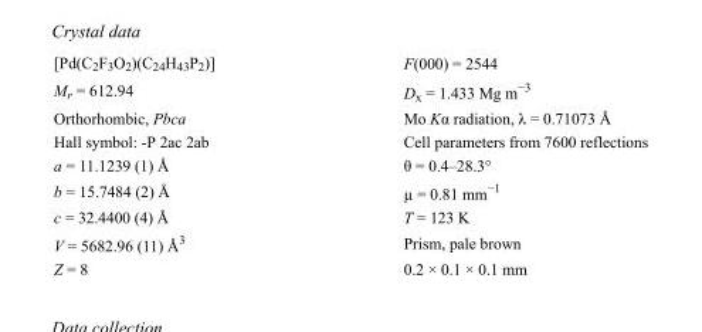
<table><tbody><tr><td>[Pd(C<sub>2</sub>F<sub>3</sub>O<sub>2</sub>)(C<sub>24</sub>H<sub>43</sub>P<sub>2</sub>)]</td><td>F(000) = 2544</td></tr><tr><td>M<sub>r</sub> = 612.94</td><td>D<sub>x</sub> = 1.433 Mg m<sup>−3</sup></td></tr><tr><td>Orthorhombic, Pbca</td><td>Mo Kα radiation, λ = 0.71073 Å</td></tr><tr><td>Hall symbol: -P 2ac 2ab</td><td>Cell parameters from 7600 reflections</td></tr><tr><td>a = 11.1239 (1) Å</td><td>θ = 0.4–28.3°</td></tr><tr><td>b = 15.7484 (2) Å</td><td>µ = 0.81 mm<sup>−1</sup></td></tr><tr><td>c = 32.4400 (4) Å</td><td>T = 123 K</td></tr><tr><td>V = 5682.96 (11) Å<sup>3</sup></td><td>Prism, pale brown</td></tr><tr><td>Z = 8</td><td>0.2 × 0.1 × 0.1 mm</td></tr></tbody></table>